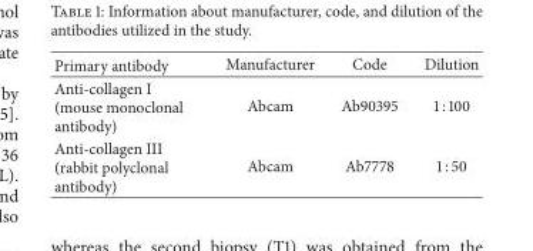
<table><thead><tr><td>Primary antibody</td><td>Manufacturer</td><td>Code</td><td>Dilution</td></tr></thead><tbody><tr><td>Anti-collagen I (mouse monoclonal antibody)</td><td>Abcam</td><td>Ab90395</td><td>1 : 100</td></tr><tr><td>Anti-collagen III (rabbit polyclonal antibody)</td><td>Abcam</td><td>Ab7778</td><td>1 : 50</td></tr></tbody></table>